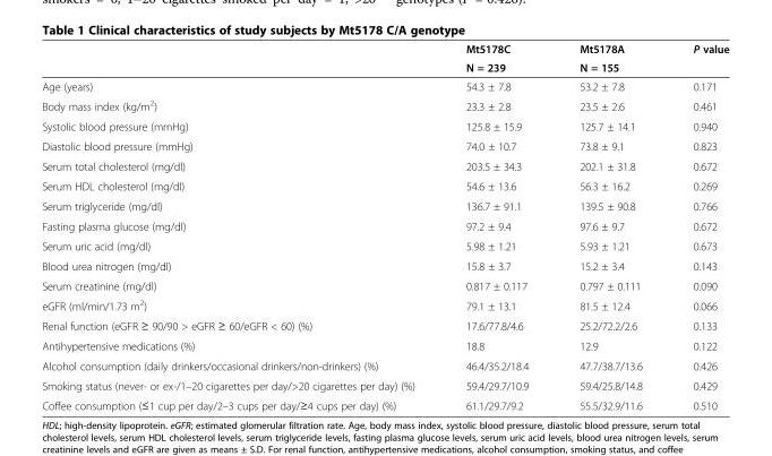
<table><thead><tr><td rowspan="2"></td><td rowspan="2">Mt5178C N = 239</td><td rowspan="2">Mt5178A N = 155</td><td rowspan="2">P value</td></tr><tr></tr></thead><tbody><tr><td>Age (years)</td><td>54.3 ± 7.8</td><td>53.2 ± 7.8</td><td>0.171</td></tr><tr><td>Body mass index (kg/m<sup>2</sup>)</td><td>23.3 ± 2.8</td><td>23.5 ± 2.6</td><td>0.461</td></tr><tr><td>Systolic blood pressure (mmHg)</td><td>125.8 ± 15.9</td><td>125.7 ± 14.1</td><td>0.940</td></tr><tr><td>Diastolic blood pressure (mmHg)</td><td>74.0 ± 10.7</td><td>73.8 ± 9.1</td><td>0.823</td></tr><tr><td>Serum total cholesterol (mg/dl)</td><td>203.5 ± 34.3</td><td>202.1 ± 31.8</td><td>0.672</td></tr><tr><td>Serum HDL cholesterol (mg/dl)</td><td>54.6 ± 13.6</td><td>56.3 ± 16.2</td><td>0.269</td></tr><tr><td>Serum triglyceride (mg/dl)</td><td>136.7 ± 91.1</td><td>139.5 ± 90.8</td><td>0.766</td></tr><tr><td>Fasting plasma glucose (mg/dl)</td><td>97.2 ± 9.4</td><td>97.6 ± 9.7</td><td>0.672</td></tr><tr><td>Serum uric acid (mg/dl)</td><td>5.98 ± 1.21</td><td>5.93 ± 1.21</td><td>0.673</td></tr><tr><td>Blood urea nitrogen (mg/dl)</td><td>15.8 ± 3.7</td><td>15.2 ± 3.4</td><td>0.143</td></tr><tr><td>Serum creatinine (mg/dl)</td><td>0.817 ± 0.117</td><td>0.797 ± 0.111</td><td>0.090</td></tr><tr><td>eGFR (ml/min/1.73 m<sup>2</sup>)</td><td>79.1 ± 13.1</td><td>81.5 ± 12.4</td><td>0.066</td></tr><tr><td>Renal function (eGFR ≥ 90/90 &gt; eGFR ≥ 60/eGFR &lt; 60) (%)</td><td>17.6/77.8/4.6</td><td>25.2/72.2/2.6</td><td>0.133</td></tr><tr><td>Antihypertensive medications (%)</td><td>18.8</td><td>12.9</td><td>0.122</td></tr><tr><td>Alcohol consumption (daily drinkers/occasional drinkers/non-drinkers) (%)</td><td>46.4/35.2/18.4</td><td>47.7/38.7/13.6</td><td>0.426</td></tr><tr><td>Smoking status (never- or ex-/1–20 cigarettes per day/&gt;20 cigarettes per day) (%)</td><td>59.4/29.7/10.9</td><td>59.4/25.8/14.8</td><td>0.429</td></tr><tr><td>Coffee consumption (≤1 cup per day/2–3 cups per day/≥4 cups per day) (%)</td><td>61.1/29.7/9.2</td><td>55.5/32.9/11.6</td><td>0.510</td></tr></tbody></table>